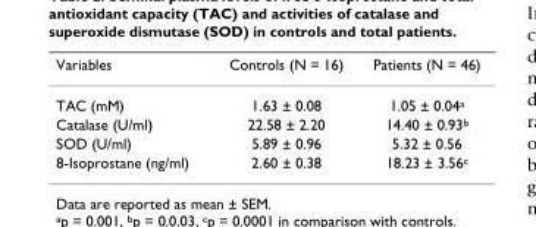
<table><thead><tr><td>Variables</td><td>Controls (N = 16)</td><td>Patients (N = 46)</td></tr></thead><tbody><tr><td>TAC (mM)</td><td>1.63 ± 0.08</td><td>1.05 ± 0.04<sup>a</sup></td></tr><tr><td>Catalase (U/ml)</td><td>22.58 ± 2.20</td><td>14.40 ± 0.93<sup>b</sup></td></tr><tr><td>SOD (U/ml)</td><td>5.89 ± 0.96</td><td>5.32 ± 0.56</td></tr><tr><td>8-Isoprostane (ng/ml)</td><td>2.60 ± 0.38</td><td>18.23 ± 3.56<sup>c</sup></td></tr></tbody></table>